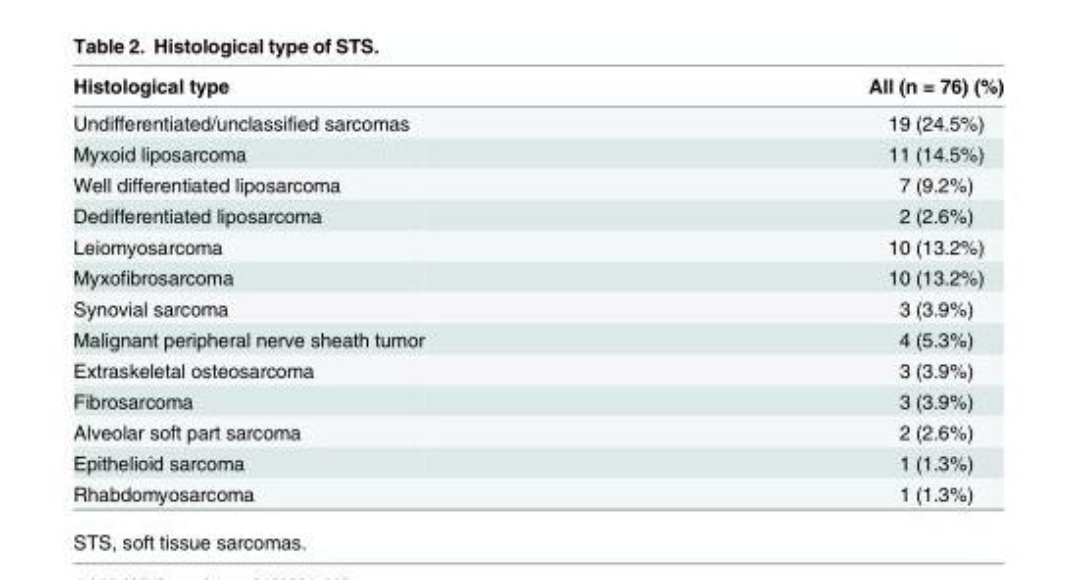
<table><thead><tr><td>Histological type</td><td>All (n = 76) (%)</td></tr></thead><tbody><tr><td>Undifferentiated/unclassified sarcomas</td><td>19 (24.5%)</td></tr><tr><td>Myxoid liposarcoma</td><td>11 (14.5%)</td></tr><tr><td>Well differentiated liposarcoma</td><td>7 (9.2%)</td></tr><tr><td>Dedifferentiated liposarcoma</td><td>2 (2.6%)</td></tr><tr><td>Leiomyosarcoma</td><td>10 (13.2%)</td></tr><tr><td>Myxofibrosarcoma</td><td>10 (13.2%)</td></tr><tr><td>Synovial sarcoma</td><td>3 (3.9%)</td></tr><tr><td>Malignant peripheral nerve sheath tumor</td><td>4 (5.3%)</td></tr><tr><td>Extraskeletal osteosarcoma</td><td>3 (3.9%)</td></tr><tr><td>Fibrosarcoma</td><td>3 (3.9%)</td></tr><tr><td>Alveolar soft part sarcoma</td><td>2 (2.6%)</td></tr><tr><td>Epithelioid sarcoma</td><td>1 (1.3%)</td></tr><tr><td>Rhabdomyosarcoma</td><td>1 (1.3%)</td></tr></tbody></table>